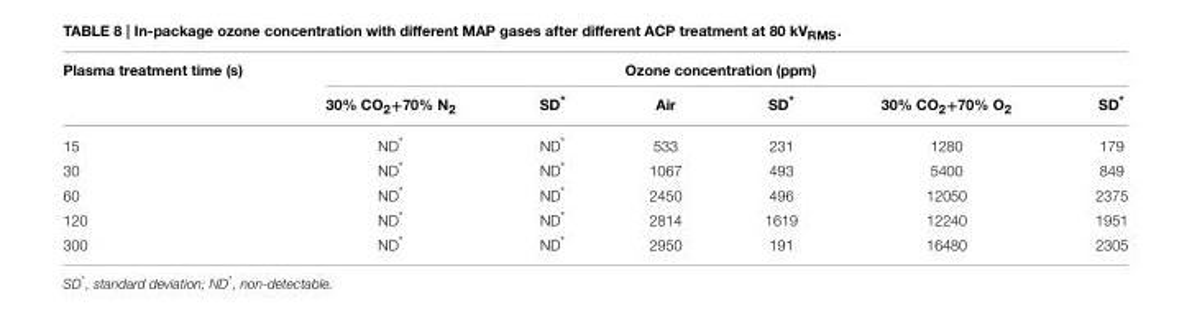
<table><thead><tr><td rowspan="2">Plasma treatment time (s)</td><td colspan="6">Ozone concentration (ppm)</td></tr><tr><td>30% CO<sub>2</sub>+70% N<sub>2</sub></td><td>SD*</td><td>Air</td><td>SD*</td><td>30% CO<sub>2</sub>+70% O<sub>2</sub></td><td>SD*</td></tr></thead><tbody><tr><td>15</td><td>ND*</td><td>ND*</td><td>533</td><td>231</td><td>1280</td><td>179</td></tr><tr><td>30</td><td>ND*</td><td>ND*</td><td>1067</td><td>493</td><td>5400</td><td>849</td></tr><tr><td>60</td><td>ND*</td><td>ND*</td><td>2450</td><td>496</td><td>12050</td><td>2375</td></tr><tr><td>120</td><td>ND*</td><td>ND*</td><td>2814</td><td>1619</td><td>12240</td><td>1951</td></tr><tr><td>300</td><td>ND*</td><td>ND*</td><td>2950</td><td>191</td><td>16480</td><td>2305</td></tr></tbody></table>